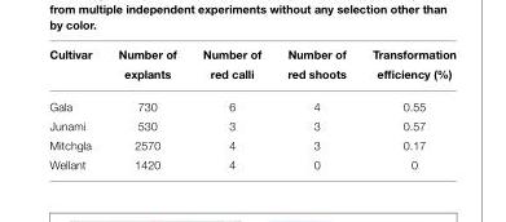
<table><thead><tr><td>Cultivar</td><td>Number of explants</td><td>Number of red calli</td><td>Number of red shoots</td><td>Transformation efficiency (%)</td></tr></thead><tbody><tr><td>Gala</td><td>730</td><td>6</td><td>4</td><td>0.55</td></tr><tr><td>Junami</td><td>530</td><td>3</td><td>3</td><td>0.57</td></tr><tr><td>Mitchgla</td><td>2570</td><td>4</td><td>3</td><td>0.17</td></tr><tr><td>Wellant</td><td>1420</td><td>4</td><td>0</td><td>0</td></tr></tbody></table>